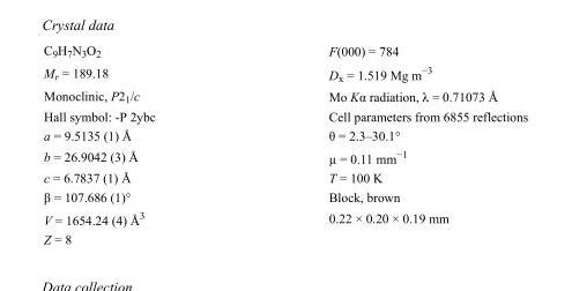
<table><tbody><tr><td>C<sub>9</sub>H<sub>7</sub>N<sub>3</sub>O<sub>2</sub></td><td>F(000) = 784</td></tr><tr><td>M<sub>r</sub> = 189.18</td><td>D<sub>x</sub> = 1.519 Mg m<sup>−3</sup></td></tr><tr><td>Monoclinic, P2<sub>1</sub>/c</td><td>Mo Kα radiation, λ = 0.71073 Å</td></tr><tr><td>Hall symbol: -P 2ybc</td><td>Cell parameters from 6855 reflections</td></tr><tr><td>a = 9.5135 (1) Å</td><td>θ = 2.3–30.1°</td></tr><tr><td>b = 26.9042 (3) Å</td><td>µ = 0.11 mm<sup>−1</sup></td></tr><tr><td>c = 6.7837 (1) Å</td><td>T = 100 K</td></tr><tr><td>β = 107.686 (1)°</td><td>Block, brown</td></tr><tr><td>V = 1654.24 (4) Å<sup>3</sup></td><td>0.22 × 0.20 × 0.19 mm</td></tr><tr><td>Z = 8</td><td></td></tr></tbody></table>